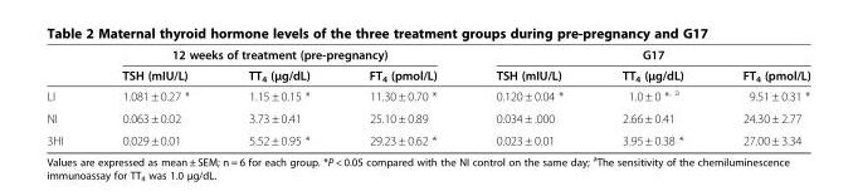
<table><thead><tr><td rowspan="2"></td><td colspan="3">12 weeks of treatment (pre-pregnancy)</td><td colspan="3">G17</td></tr><tr><td>TSH (mIU/L)</td><td>TT<sub>4</sub> (μg/dL)</td><td>FT<sub>4</sub> (pmol/L)</td><td>TSH (mIU/L)</td><td>TT<sub>4</sub> (μg/dL)</td><td>FT<sub>4</sub> (pmol/L)</td></tr></thead><tbody><tr><td>LI</td><td>1.081 ± 0.27 *</td><td>1.15 ± 0.15 *</td><td>11.30 ± 0.70 *</td><td>0.120 ± 0.04 *</td><td>1.0 ± 0 *<sup>, a</sup></td><td>9.51 ± 0.31 *</td></tr><tr><td>NI</td><td>0.063 ± 0.02</td><td>3.73 ± 0.41</td><td>25.10 ± 0.89</td><td>0.034 ± .000</td><td>2.66 ± 0.41</td><td>24.30 ± 2.77</td></tr><tr><td>3HI</td><td>0.029 ± 0.01</td><td>5.52 ± 0.95 *</td><td>29.23 ± 0.62 *</td><td>0.023 ± 0.01</td><td>3.95 ± 0.38 *</td><td>27.00 ± 3.34</td></tr></tbody></table>